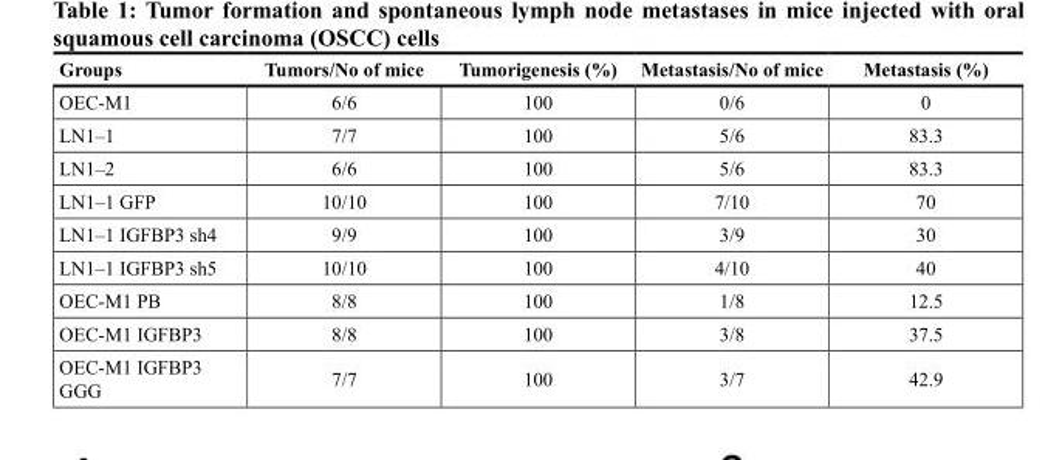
<table><thead><tr><td>Groups</td><td>Tumors/No of mice</td><td>Tumorigenesis (%)</td><td>Metastasis/No of mice</td><td>Metastasis (%)</td></tr></thead><tbody><tr><td>OEC-M1</td><td>6/6</td><td>100</td><td>0/6</td><td>0</td></tr><tr><td>LN1–1</td><td>7/7</td><td>100</td><td>5/6</td><td>83.3</td></tr><tr><td>LN1–2</td><td>6/6</td><td>100</td><td>5/6</td><td>83.3</td></tr><tr><td>LN1–1 GFP</td><td>10/10</td><td>100</td><td>7/10</td><td>70</td></tr><tr><td>LN1–1 IGFBP3 sh4</td><td>9/9</td><td>100</td><td>3/9</td><td>30</td></tr><tr><td>LN1–1 IGFBP3 sh5</td><td>10/10</td><td>100</td><td>4/10</td><td>40</td></tr><tr><td>OEC-M1 PB</td><td>8/8</td><td>100</td><td>1/8</td><td>12.5</td></tr><tr><td>OEC-M1 IGFBP3</td><td>8/8</td><td>100</td><td>3/8</td><td>37.5</td></tr><tr><td>OEC-M1 IGFBP3 GGG</td><td>7/7</td><td>100</td><td>3/7</td><td>42.9</td></tr></tbody></table>